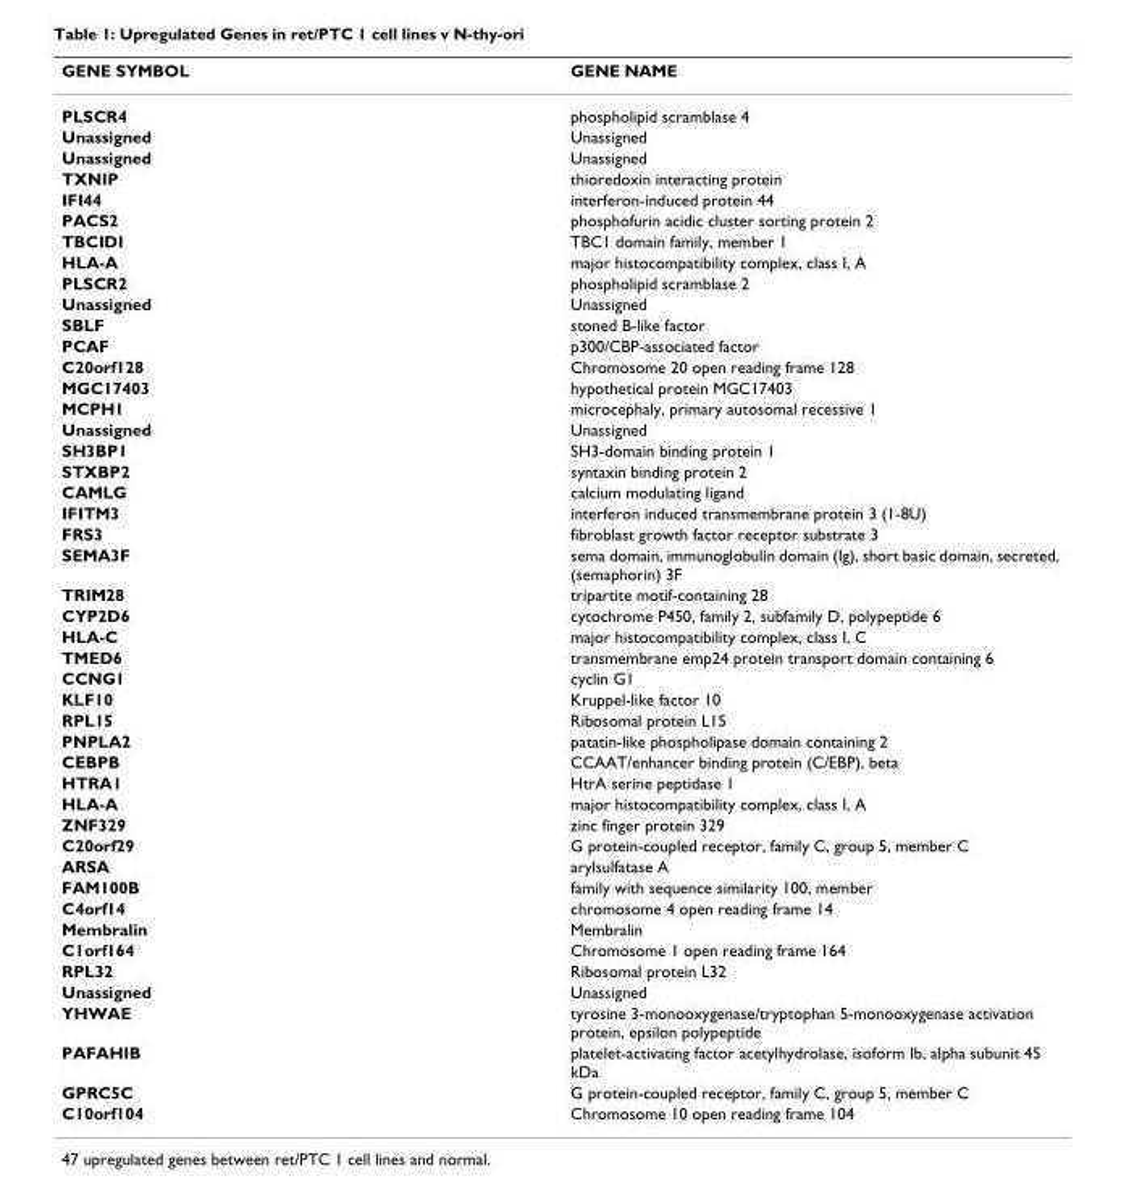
<table><thead><tr><td>GENE SYMBOL</td><td>GENE NAME</td></tr></thead><tbody><tr><td>PLSCR4</td><td>phospholipid scramblase 4</td></tr><tr><td>Unassigned</td><td>Unassigned</td></tr><tr><td>Unassigned</td><td>Unassigned</td></tr><tr><td>TXNIP</td><td>thioredoxin interacting protein</td></tr><tr><td>IFI44</td><td>interferon-induced protein 44</td></tr><tr><td>PACS2</td><td>phosphofurin acidic cluster sorting protein 2</td></tr><tr><td>TBCIDI</td><td>TBC1 domain family, member 1</td></tr><tr><td>HLA-A</td><td>major histocompatibility complex, class I, A</td></tr><tr><td>PLSCR2</td><td>phospholipid scramblase 2</td></tr><tr><td>Unassigned</td><td>Unassigned</td></tr><tr><td>SBLF</td><td>stoned B-like factor</td></tr><tr><td>PCAF</td><td>p300/CBP-associated factor</td></tr><tr><td>C20orf128</td><td>Chromosome 20 open reading frame 128</td></tr><tr><td>MGC17403</td><td>hypothetical protein MGC17403</td></tr><tr><td>MCPH1</td><td>microcephaly, primary autosomal recessive 1</td></tr><tr><td>Unassigned</td><td>Unassigned</td></tr><tr><td>SH3BP1</td><td>SH3-domain binding protein 1</td></tr><tr><td>STXBP2</td><td>syntaxin binding protein 2</td></tr><tr><td>CAMLG</td><td>calcium modulating ligand</td></tr><tr><td>IFITM3</td><td>interferon induced transmembrane protein 3 (1-8U)</td></tr><tr><td>FRS3</td><td>fibroblast growth factor receptor substrate 3</td></tr><tr><td>SEMA3F</td><td>sema domain, immunoglobulin domain (Ig), short basic domain, secreted, (semaphorin) 3F</td></tr><tr><td>TRIM28</td><td>tripartite motif-containing 28</td></tr><tr><td>CYP2D6</td><td>cytochrome P450, family 2, subfamily D, polypeptide 6</td></tr><tr><td>HLA-C</td><td>major histocompatibility complex, class I, C</td></tr><tr><td>TMED6</td><td>transmembrane emp24 protein transport domain containing 6</td></tr><tr><td>CCNG1</td><td>cyclin G1</td></tr><tr><td>KLF10</td><td>Kruppel-like factor 10</td></tr><tr><td>RPL15</td><td>Ribosomal protein L15</td></tr><tr><td>PNPLA2</td><td>patatin-like phospholipase domain containing 2</td></tr><tr><td>CEBPB</td><td>CCAAT/enhancer binding protein (C/EBP), beta</td></tr><tr><td>HTRA1</td><td>HtrA serine peptidase 1</td></tr><tr><td>HLA-A</td><td>major histocompatibility complex, class I, A</td></tr><tr><td>ZNF329</td><td>zinc finger protein 329</td></tr><tr><td>C20orf29</td><td>G protein-coupled receptor, family C, group 5, member C</td></tr><tr><td>ARSA</td><td>arylsulfatase A</td></tr><tr><td>FAM100B</td><td>family with sequence similarity 100, member</td></tr><tr><td>C4orf14</td><td>chromosome 4 open reading frame 14</td></tr><tr><td>Membralin</td><td>Membralin</td></tr><tr><td>C1orf164</td><td>Chromosome 1 open reading frame 164</td></tr><tr><td>RPL32</td><td>Ribosomal protein L32</td></tr><tr><td>Unassigned</td><td>Unassigned</td></tr><tr><td>YHWAE</td><td>tyrosine 3-monooxygenase/tryptophan 5-monooxygenase activation protein, epsilon polypeptide</td></tr><tr><td>PAFAHIB</td><td>platelet-activating factor acetylhydrolase, isoform Ib, alpha subunit 45 kDa</td></tr><tr><td>GPRC5C</td><td>G protein-coupled receptor, family C, group 5, member C</td></tr><tr><td>C10orf104</td><td>Chromosome 10 open reading frame 104</td></tr></tbody></table>